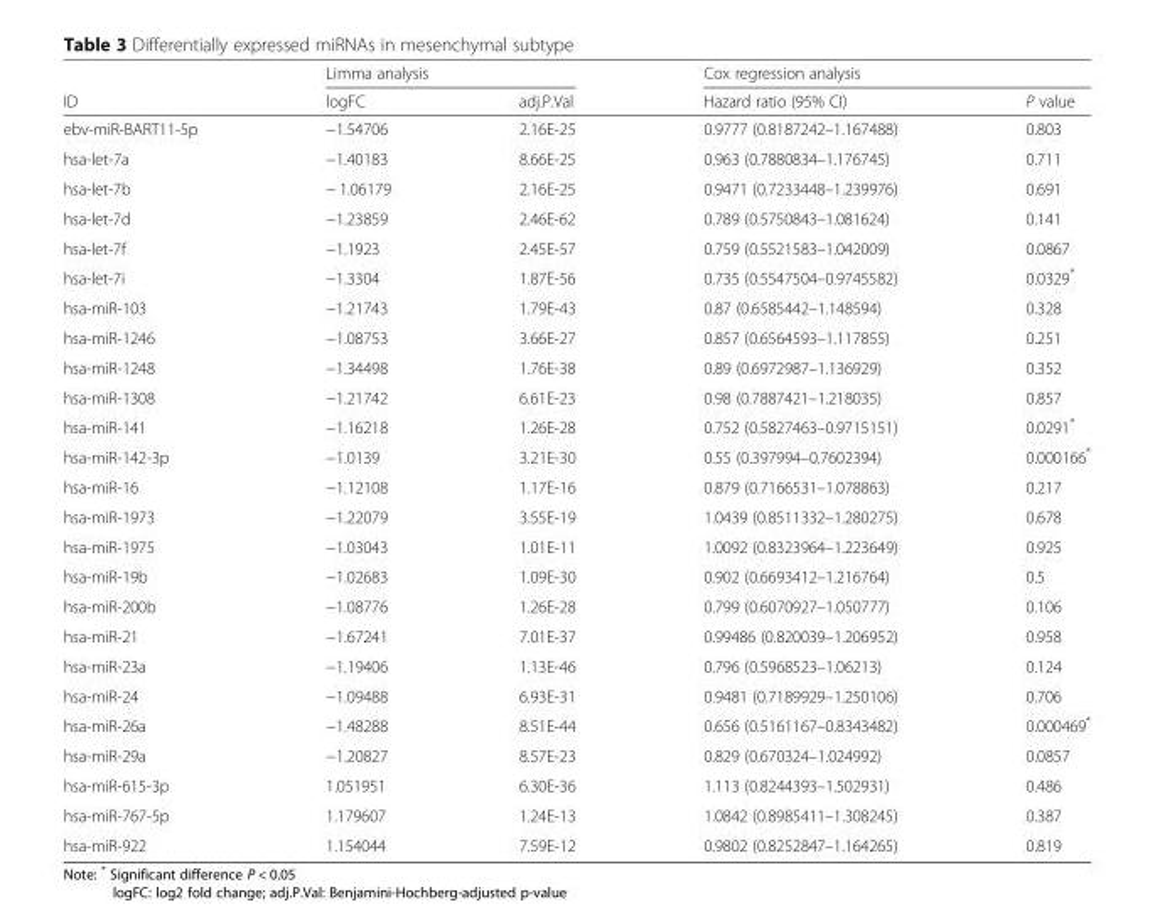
<table><thead><tr><td rowspan="2">ID</td><td colspan="2">Limma analysis</td><td colspan="2">Cox regression analysis</td></tr><tr><td>logFC</td><td>adj.P.Val</td><td>Hazard ratio (95% CI)</td><td>P value</td></tr></thead><tbody><tr><td>ebv-miR-BART11-5p</td><td>−1.54706</td><td>2.16E-25</td><td>0.9777 (0.8187242–1.167488)</td><td>0.803</td></tr><tr><td>hsa-let-7a</td><td>−1.40183</td><td>8.66E-25</td><td>0.963 (0.7880834–1.176745)</td><td>0.711</td></tr><tr><td>hsa-let-7b</td><td>− 1.06179</td><td>2.16E-25</td><td>0.9471 (0.7233448–1.239976)</td><td>0.691</td></tr><tr><td>hsa-let-7d</td><td>−1.23859</td><td>2.46E-62</td><td>0.789 (0.5750843–1.081624)</td><td>0.141</td></tr><tr><td>hsa-let-7f</td><td>−1.1923</td><td>2.45E-57</td><td>0.759 (0.5521583–1.042009)</td><td>0.0867</td></tr><tr><td>hsa-let-7i</td><td>−1.3304</td><td>1.87E-56</td><td>0.735 (0.5547504–0.9745582)</td><td>0.0329*</td></tr><tr><td>hsa-miR-103</td><td>−1.21743</td><td>1.79E-43</td><td>0.87 (0.6585442–1.148594)</td><td>0.328</td></tr><tr><td>hsa-miR-1246</td><td>−1.08753</td><td>3.66E-27</td><td>0.857 (0.6564593–1.117855)</td><td>0.251</td></tr><tr><td>hsa-miR-1248</td><td>−1.34498</td><td>1.76E-38</td><td>0.89 (0.6972987–1.136929)</td><td>0.352</td></tr><tr><td>hsa-miR-1308</td><td>−1.21742</td><td>6.61E-23</td><td>0.98 (0.7887421–1.218035)</td><td>0.857</td></tr><tr><td>hsa-miR-141</td><td>−1.16218</td><td>1.26E-28</td><td>0.752 (0.5827463–0.9715151)</td><td>0.0291*</td></tr><tr><td>hsa-miR-142-3p</td><td>−1.0139</td><td>3.21E-30</td><td>0.55 (0.397994–0.7602394)</td><td>0.000166*</td></tr><tr><td>hsa-miR-16</td><td>−1.12108</td><td>1.17E-16</td><td>0.879 (0.7166531–1.078863)</td><td>0.217</td></tr><tr><td>hsa-miR-1973</td><td>−1.22079</td><td>3.55E-19</td><td>1.0439 (0.8511332–1.280275)</td><td>0.678</td></tr><tr><td>hsa-miR-1975</td><td>−1.03043</td><td>1.01E-11</td><td>1.0092 (0.8323964–1.223649)</td><td>0.925</td></tr><tr><td>hsa-miR-19b</td><td>−1.02683</td><td>1.09E-30</td><td>0.902 (0.6693412–1.216764)</td><td>0.5</td></tr><tr><td>hsa-miR-200b</td><td>−1.08776</td><td>1.26E-28</td><td>0.799 (0.6070927–1.050777)</td><td>0.106</td></tr><tr><td>hsa-miR-21</td><td>−1.67241</td><td>7.01E-37</td><td>0.99486 (0.820039–1.206952)</td><td>0.958</td></tr><tr><td>hsa-miR-23a</td><td>−1.19406</td><td>1.13E-46</td><td>0.796 (0.5968523–1.06213)</td><td>0.124</td></tr><tr><td>hsa-miR-24</td><td>−1.09488</td><td>6.93E-31</td><td>0.9481 (0.7189929–1.250106)</td><td>0.706</td></tr><tr><td>hsa-miR-26a</td><td>−1.48288</td><td>8.51E-44</td><td>0.656 (0.5161167–0.8343482)</td><td>0.000469*</td></tr><tr><td>hsa-miR-29a</td><td>−1.20827</td><td>8.57E-23</td><td>0.829 (0.670324–1.024992)</td><td>0.0857</td></tr><tr><td>hsa-miR-615-3p</td><td>1.051951</td><td>6.30E-36</td><td>1.113 (0.8244393–1.502931)</td><td>0.486</td></tr><tr><td>hsa-miR-767-5p</td><td>1.179607</td><td>1.24E-13</td><td>1.0842 (0.8985411–1.308245)</td><td>0.387</td></tr><tr><td>hsa-miR-922</td><td>1.154044</td><td>7.59E-12</td><td>0.9802 (0.8252847–1.164265)</td><td>0.819</td></tr></tbody></table>